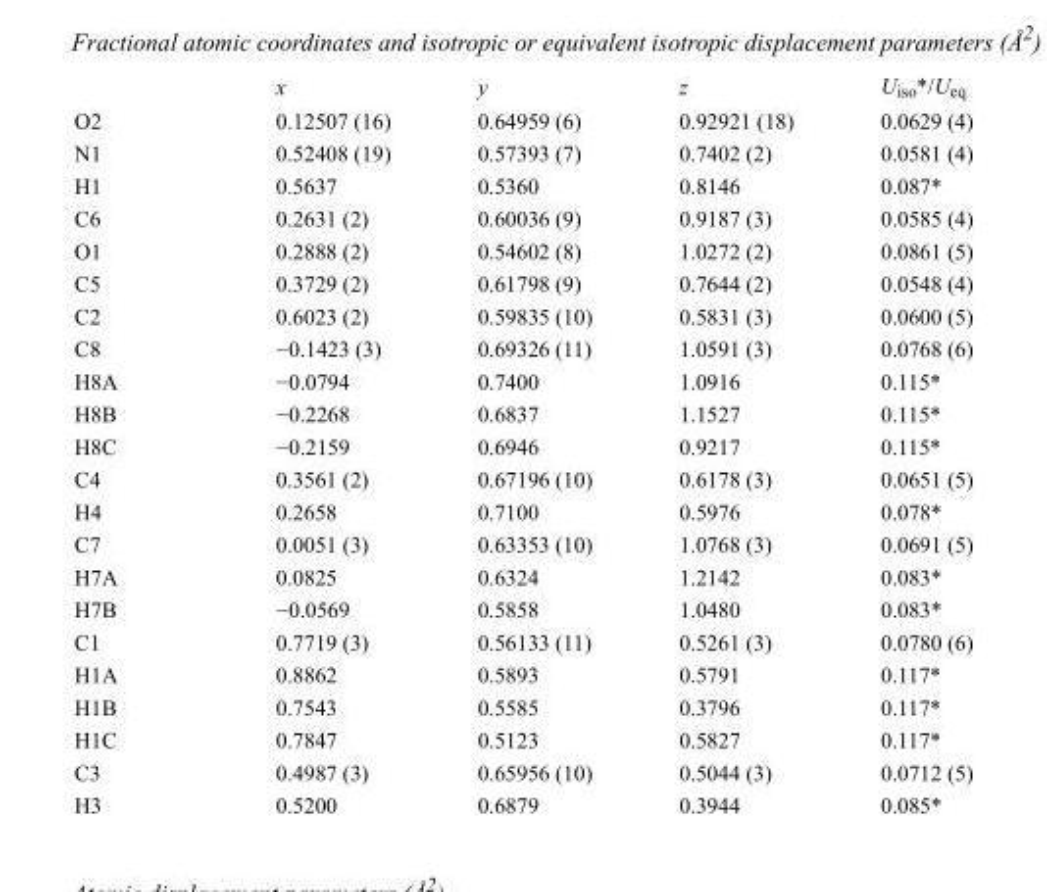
<table><thead><tr><td></td><td>x</td><td>y</td><td>z</td><td>U<sub>iso</sub>*/U<sub>eq</sub></td></tr></thead><tbody><tr><td>O2</td><td>0.12507 (16)</td><td>0.64959 (6)</td><td>0.92921 (18)</td><td>0.0629 (4)</td></tr><tr><td>N1</td><td>0.52408 (19)</td><td>0.57393 (7)</td><td>0.7402 (2)</td><td>0.0581 (4)</td></tr><tr><td>H1</td><td>0.5637</td><td>0.5360</td><td>0.8146</td><td>0.087*</td></tr><tr><td>C6</td><td>0.2631 (2)</td><td>0.60036 (9)</td><td>0.9187 (3)</td><td>0.0585 (4)</td></tr><tr><td>O1</td><td>0.2888 (2)</td><td>0.54602 (8)</td><td>1.0272 (2)</td><td>0.0861 (5)</td></tr><tr><td>C5</td><td>0.3729 (2)</td><td>0.61798 (9)</td><td>0.7644 (2)</td><td>0.0548 (4)</td></tr><tr><td>C2</td><td>0.6023 (2)</td><td>0.59835 (10)</td><td>0.5831 (3)</td><td>0.0600 (5)</td></tr><tr><td>C8</td><td>−0.1423 (3)</td><td>0.69326 (11)</td><td>1.0591 (3)</td><td>0.0768 (6)</td></tr><tr><td>H8A</td><td>−0.0794</td><td>0.7400</td><td>1.0916</td><td>0.115*</td></tr><tr><td>H8B</td><td>−0.2268</td><td>0.6837</td><td>1.1527</td><td>0.115*</td></tr><tr><td>H8C</td><td>−0.2159</td><td>0.6946</td><td>0.9217</td><td>0.115*</td></tr><tr><td>C4</td><td>0.3561 (2)</td><td>0.67196 (10)</td><td>0.6178 (3)</td><td>0.0651 (5)</td></tr><tr><td>H4</td><td>0.2658</td><td>0.7100</td><td>0.5976</td><td>0.078*</td></tr><tr><td>C7</td><td>0.0051 (3)</td><td>0.63353 (10)</td><td>1.0768 (3)</td><td>0.0691 (5)</td></tr><tr><td>H7A</td><td>0.0825</td><td>0.6324</td><td>1.2142</td><td>0.083*</td></tr><tr><td>H7B</td><td>−0.0569</td><td>0.5858</td><td>1.0480</td><td>0.083*</td></tr><tr><td>C1</td><td>0.7719 (3)</td><td>0.56133 (11)</td><td>0.5261 (3)</td><td>0.0780 (6)</td></tr><tr><td>H1A</td><td>0.8862</td><td>0.5893</td><td>0.5791</td><td>0.117*</td></tr><tr><td>H1B</td><td>0.7543</td><td>0.5585</td><td>0.3796</td><td>0.117*</td></tr><tr><td>H1C</td><td>0.7847</td><td>0.5123</td><td>0.5827</td><td>0.117*</td></tr><tr><td>C3</td><td>0.4987 (3)</td><td>0.65956 (10)</td><td>0.5044 (3)</td><td>0.0712 (5)</td></tr><tr><td>H3</td><td>0.5200</td><td>0.6879</td><td>0.3944</td><td>0.085*</td></tr></tbody></table>